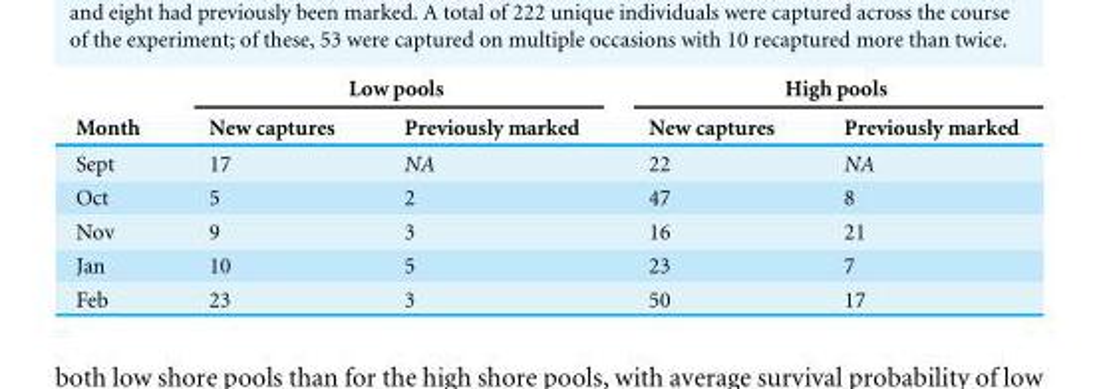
<table><thead><tr><td rowspan="2">Month</td><td colspan="2">Low pools</td><td colspan="2">High pools</td></tr><tr><td>New captures</td><td>Previously marked</td><td>New captures</td><td>Previously marked</td></tr></thead><tbody><tr><td>Sept</td><td>17</td><td>NA</td><td>22</td><td>NA</td></tr><tr><td>Oct</td><td>5</td><td>2</td><td>47</td><td>8</td></tr><tr><td>Nov</td><td>9</td><td>3</td><td>16</td><td>21</td></tr><tr><td>Jan</td><td>10</td><td>5</td><td>23</td><td>7</td></tr><tr><td>Feb</td><td>23</td><td>3</td><td>50</td><td>17</td></tr></tbody></table>